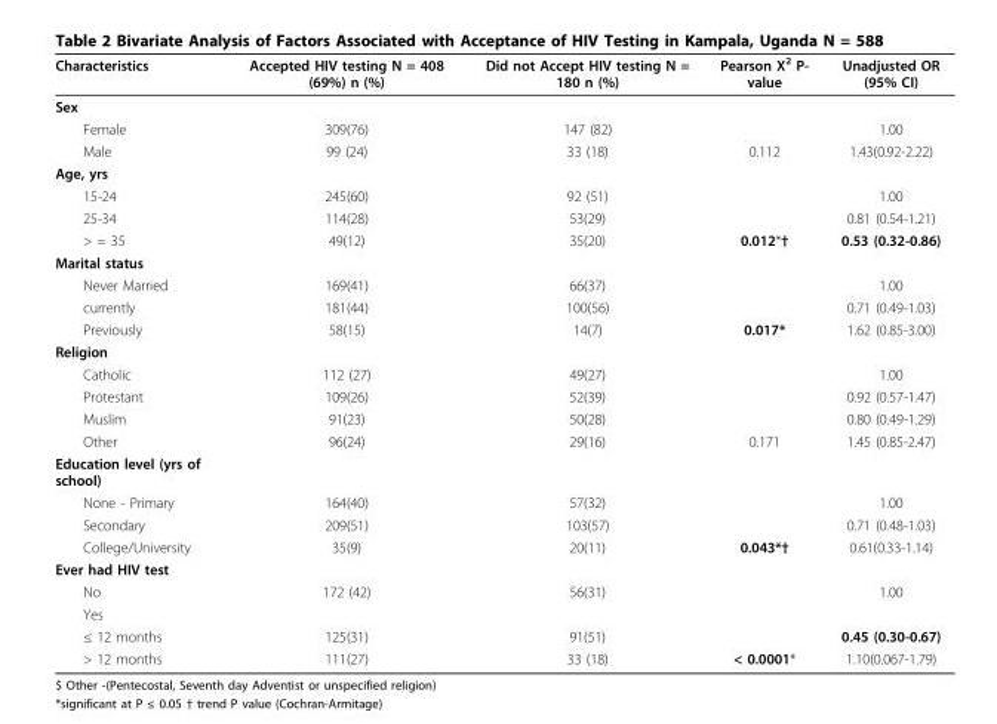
<table><thead><tr><td>Characteristics</td><td>Accepted HIV testing N = 408 (69%) n (%)</td><td>Did not Accept HIV testing N = 180 n (%)</td><td>Pearson X<sup>2</sup> P- value</td><td>Unadjusted OR (95% CI)</td></tr></thead><tbody><tr><td colspan="5">Sex</td></tr><tr><td>Female</td><td>309(76)</td><td>147 (82)</td><td></td><td>1.00</td></tr><tr><td>Male</td><td>99 (24)</td><td>33 (18)</td><td>0.112</td><td>1.43(0.92-2.22)</td></tr><tr><td colspan="5">Age, yrs</td></tr><tr><td>15-24</td><td>245(60)</td><td>92 (51)</td><td></td><td>1.00</td></tr><tr><td>25-34</td><td>114(28)</td><td>53(29)</td><td></td><td>0.81 (0.54-1.21)</td></tr><tr><td>&gt; = 35</td><td>49(12)</td><td>35(20)</td><td>0.012*†</td><td>0.53 (0.32-0.86)</td></tr><tr><td colspan="5">Marital status</td></tr><tr><td>Never Married</td><td>169(41)</td><td>66(37)</td><td></td><td>1.00</td></tr><tr><td>currently</td><td>181(44)</td><td>100(56)</td><td></td><td>0.71 (0.49-1.03)</td></tr><tr><td>Previously</td><td>58(15)</td><td>14(7)</td><td>0.017*</td><td>1.62 (0.85-3.00)</td></tr><tr><td colspan="5">Religion</td></tr><tr><td>Catholic</td><td>112 (27)</td><td>49(27)</td><td></td><td>1.00</td></tr><tr><td>Protestant</td><td>109(26)</td><td>52(39)</td><td></td><td>0.92 (0.57-1.47)</td></tr><tr><td>Muslim</td><td>91(23)</td><td>50(28)</td><td></td><td>0.80 (0.49-1.29)</td></tr><tr><td>Other</td><td>96(24)</td><td>29(16)</td><td>0.171</td><td>1.45 (0.85-2.47)</td></tr><tr><td colspan="5">Education level (yrs of school)</td></tr><tr><td>None - Primary</td><td>164(40)</td><td>57(32)</td><td></td><td>1.00</td></tr><tr><td>Secondary</td><td>209(51)</td><td>103(57)</td><td></td><td>0.71 (0.48-1.03)</td></tr><tr><td>College/University</td><td>35(9)</td><td>20(11)</td><td>0.043*†</td><td>0.61(0.33-1.14)</td></tr><tr><td colspan="5">Ever had HIV test</td></tr><tr><td>No</td><td>172 (42)</td><td>56(31)</td><td></td><td>1.00</td></tr><tr><td colspan="5">Yes</td></tr><tr><td>≤ 12 months</td><td>125(31)</td><td>91(51)</td><td></td><td>0.45 (0.30-0.67)</td></tr><tr><td>&gt; 12 months</td><td>111(27)</td><td>33 (18)</td><td>&lt; 0.0001*</td><td>1.10(0.067-1.79)</td></tr></tbody></table>